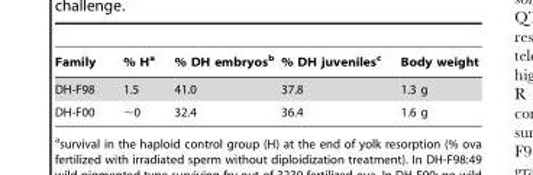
<table><thead><tr><td>Family</td><td>% H<sup>a</sup></td><td>% DH embryos<sup>b</sup></td><td>% DH juveniles<sup>c</sup></td><td>Body weight</td></tr></thead><tbody><tr><td>DH-F98</td><td>1.5</td><td>41.0</td><td>37.8</td><td>1.3 g</td></tr><tr><td>DH-F00</td><td>∼0</td><td>32.4</td><td>36.4</td><td>1.6 g</td></tr></tbody></table>